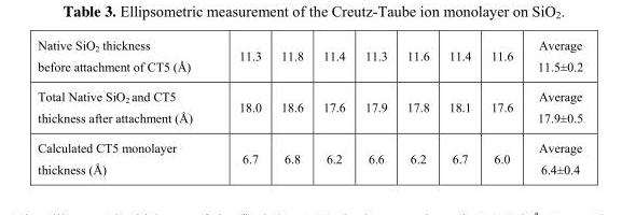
<table><tbody><tr><td>Native SiO<sub>2</sub> thickness before attachment of CT5 (Å)</td><td>11.3</td><td>11.8</td><td>11.4</td><td>11.3</td><td>11.6</td><td>11.4</td><td>11.6</td><td>Average 11.5±0.2</td></tr><tr><td>Total Native SiO<sub>2</sub> and CT5 thickness after attachment (Å)</td><td>18.0</td><td>18.6</td><td>17.6</td><td>17.9</td><td>17.8</td><td>18.1</td><td>17.6</td><td>Average 17.9±0.5</td></tr><tr><td>Calculated CT5 monolayer thickness (Å)</td><td>6.7</td><td>6.8</td><td>6.2</td><td>6.6</td><td>6.2</td><td>6.7</td><td>6.0</td><td>Average 6.4±0.4</td></tr></tbody></table>